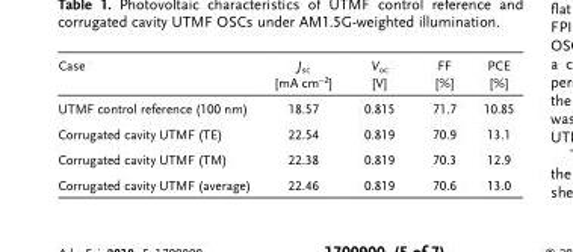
<table><thead><tr><td>Case</td><td>J<sub>sc</sub> [mA cm<sup>−2</sup>]</td><td>V<sub>oc</sub> [V]</td><td>FF [%]</td><td>PCE [%]</td></tr></thead><tbody><tr><td>UTMF control reference (100 nm)</td><td>18.57</td><td>0.815</td><td>71.7</td><td>10.85</td></tr><tr><td>Corrugated cavity UTMF (TE)</td><td>22.54</td><td>0.819</td><td>70.9</td><td>13.1</td></tr><tr><td>Corrugated cavity UTMF (TM)</td><td>22.38</td><td>0.819</td><td>70.3</td><td>12.9</td></tr><tr><td>Corrugated cavity UTMF (average)</td><td>22.46</td><td>0.819</td><td>70.6</td><td>13.0</td></tr></tbody></table>